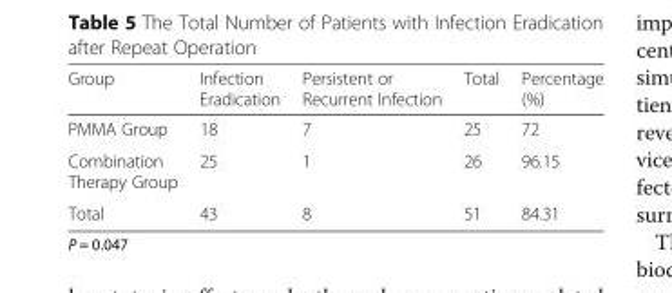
<table><thead><tr><td>Group</td><td>Infection Eradication</td><td>Persistent or Recurrent Infection</td><td>Total</td><td>Percentage (%)</td></tr></thead><tbody><tr><td>PMMA Group</td><td>18</td><td>7</td><td>25</td><td>72</td></tr><tr><td>Combination Therapy Group</td><td>25</td><td>1</td><td>26</td><td>96.15</td></tr><tr><td>Total</td><td>43</td><td>8</td><td>51</td><td>84.31</td></tr></tbody></table>